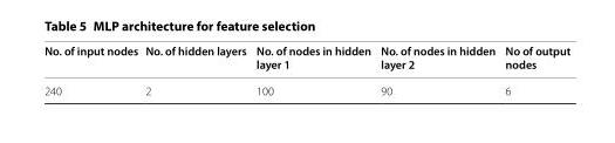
<table><thead><tr><td>No. of input nodes</td><td>No. of hidden layers</td><td>No. of nodes in hidden layer 1</td><td>No. of nodes in hidden layer 2</td><td>No of output nodes</td></tr></thead><tbody><tr><td>240</td><td>2</td><td>100</td><td>90</td><td>6</td></tr></tbody></table>